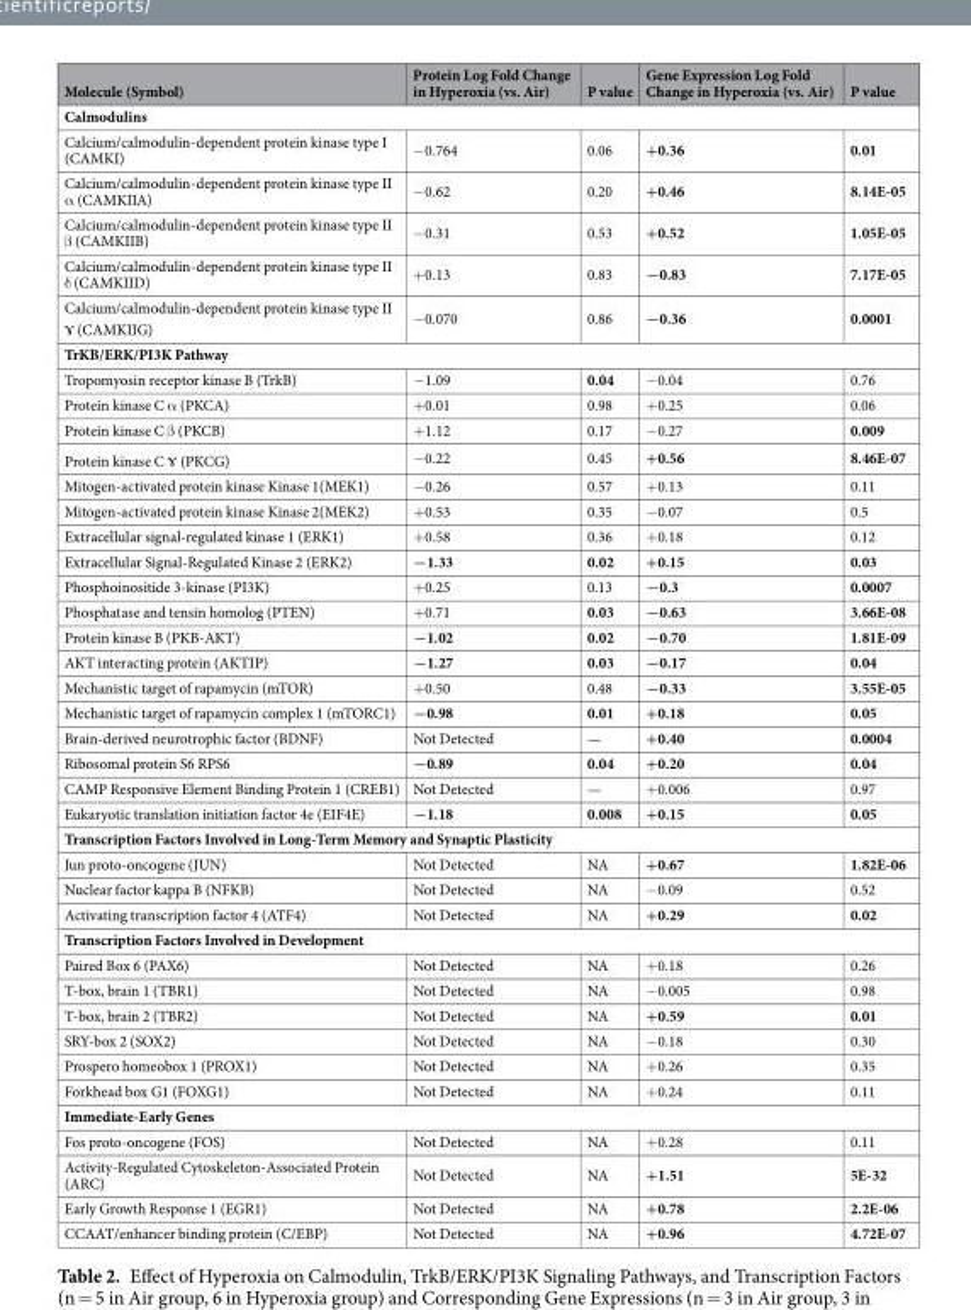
<table><thead><tr><td>Molecule (Symbol)</td><td>Protein Log Fold Change in Hyperoxia (vs. Air)</td><td>P value</td><td>Gene Expression Log Fold Change in Hyperoxia (vs. Air)</td><td>P value</td></tr></thead><tbody><tr><td colspan="5">Calmodulins</td></tr><tr><td>Calcium/calmodulin-dependent protein kinase type I (CAMKI)</td><td>−0.764</td><td>0.06</td><td>+0.36</td><td>0.01</td></tr><tr><td>Calcium/calmodulin-dependent protein kinase type II α (CAMKIIA)</td><td>−0.62</td><td>0.20</td><td>+0.46</td><td>8.14E-05</td></tr><tr><td>Calcium/calmodulin-dependent protein kinase type II β (CAMKIIB)</td><td>−0.31</td><td>0.53</td><td>+0.52</td><td>1.05E-05</td></tr><tr><td>Calcium/calmodulin-dependent protein kinase type II δ (CAMKIID)</td><td>+0.13</td><td>0.83</td><td>−0.83</td><td>7.17E-05</td></tr><tr><td>Calcium/calmodulin-dependent protein kinase type II ɤ (CAMKIIG)</td><td>−0.070</td><td>0.86</td><td>−0.36</td><td>0.0001</td></tr><tr><td colspan="5">TrKB/ERK/PI3K Pathway</td></tr><tr><td>Tropomyosin receptor kinase B (TrkB)</td><td>−1.09</td><td>0.04</td><td>−0.04</td><td>0.76</td></tr><tr><td>Protein kinase C α (PKCA)</td><td>+0.01</td><td>0.98</td><td>+0.25</td><td>0.06</td></tr><tr><td>Protein kinase C β (PKCB)</td><td>+1.12</td><td>0.17</td><td>−0.27</td><td>0.009</td></tr><tr><td>Protein kinase C ɤ (PKCG)</td><td>−0.22</td><td>0.45</td><td>+0.56</td><td>8.46E-07</td></tr><tr><td>Mitogen-activated protein kinase Kinase 1(MEK1)</td><td>−0.26</td><td>0.57</td><td>+0.13</td><td>0.11</td></tr><tr><td>Mitogen-activated protein kinase Kinase 2(MEK2)</td><td>+0.53</td><td>0.35</td><td>−0.07</td><td>0.5</td></tr><tr><td>Extracellular signal-regulated kinase 1 (ERK1)</td><td>+0.58</td><td>0.36</td><td>+0.18</td><td>0.12</td></tr><tr><td>Extracellular Signal-Regulated Kinase 2 (ERK2)</td><td>−1.33</td><td>0.02</td><td>+0.15</td><td>0.03</td></tr><tr><td>Phosphoinositide 3-kinase (PI3K)</td><td>+0.25</td><td>0.13</td><td>−0.3</td><td>0.0007</td></tr><tr><td>Phosphatase and tensin homolog (PTEN)</td><td>+0.71</td><td>0.03</td><td>−0.63</td><td>3.66E-08</td></tr><tr><td>Protein kinase B (PKB-AKT)</td><td>−1.02</td><td>0.02</td><td>−0.70</td><td>1.81E-09</td></tr><tr><td>AKT interacting protein (AKTIP)</td><td>−1.27</td><td>0.03</td><td>−0.17</td><td>0.04</td></tr><tr><td>Mechanistic target of rapamycin (mTOR)</td><td>+0.50</td><td>0.48</td><td>−0.33</td><td>3.55E-05</td></tr><tr><td>Mechanistic target of rapamycin complex 1 (mTORC1)</td><td>−0.98</td><td>0.01</td><td>+0.18</td><td>0.05</td></tr><tr><td>Brain-derived neurotrophic factor (BDNF)</td><td>Not Detected</td><td>—</td><td>+0.40</td><td>0.0004</td></tr><tr><td>Ribosomal protein S6 RPS6</td><td>−0.89</td><td>0.04</td><td>+0.20</td><td>0.04</td></tr><tr><td>CAMP Responsive Element Binding Protein 1 (CREB1)</td><td>Not Detected</td><td>—</td><td>+0.006</td><td>0.97</td></tr><tr><td>Eukaryotic translation initiation factor 4e (EIF4E)</td><td>−1.18</td><td>0.008</td><td>+0.15</td><td>0.05</td></tr><tr><td colspan="5">Transcription Factors Involved in Long-Term Memory and Synaptic Plasticity</td></tr><tr><td>Jun proto-oncogene (JUN)</td><td>Not Detected</td><td>NA</td><td>+0.67</td><td>1.82E-06</td></tr><tr><td>Nuclear factor kappa B (NFKB)</td><td>Not Detected</td><td>NA</td><td>−0.09</td><td>0.52</td></tr><tr><td>Activating transcription factor 4 (ATF4)</td><td>Not Detected</td><td>NA</td><td>+0.29</td><td>0.02</td></tr><tr><td colspan="5">Transcription Factors Involved in Development</td></tr><tr><td>Paired Box 6 (PAX6)</td><td>Not Detected</td><td>NA</td><td>+0.18</td><td>0.26</td></tr><tr><td>T-box, brain 1 (TBR1)</td><td>Not Detected</td><td>NA</td><td>−0.005</td><td>0.98</td></tr><tr><td>T-box, brain 2 (TBR2)</td><td>Not Detected</td><td>NA</td><td>+0.59</td><td>0.01</td></tr><tr><td>SRY-box 2 (SOX2)</td><td>Not Detected</td><td>NA</td><td>−0.18</td><td>0.30</td></tr><tr><td>Prospero homeobox 1 (PROX1)</td><td>Not Detected</td><td>NA</td><td>+0.26</td><td>0.35</td></tr><tr><td>Forkhead box G1 (FOXG1)</td><td>Not Detected</td><td>NA</td><td>+0.24</td><td>0.11</td></tr><tr><td colspan="5">Immediate-Early Genes</td></tr><tr><td>Fos proto-oncogene (FOS)</td><td>Not Detected</td><td>NA</td><td>+0.28</td><td>0.11</td></tr><tr><td>Activity-Regulated Cytoskeleton-Associated Protein (ARC)</td><td>Not Detected</td><td>NA</td><td>+1.51</td><td>5E-32</td></tr><tr><td>Early Growth Response 1 (EGR1)</td><td>Not Detected</td><td>NA</td><td>+0.78</td><td>2.2E-06</td></tr><tr><td>CCAAT/enhancer binding protein (C/EBP)</td><td>Not Detected</td><td>NA</td><td>+0.96</td><td>4.72E-07</td></tr></tbody></table>